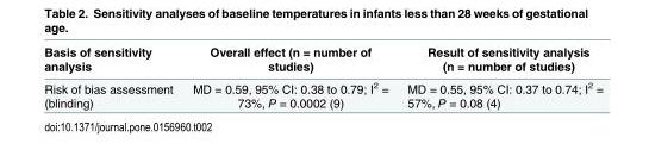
<table><thead><tr><td>Basis of sensitivity analysis</td><td>Overall effect (n = number of studies)</td><td>Result of sensitivity analysis (n = number of studies)</td></tr></thead><tbody><tr><td>Risk of bias assessment (blinding)</td><td>MD = 0.59, 95% CI: 0.38 to 0.79; I<sup>2</sup> = 73%, P = 0.0002 (9)</td><td>MD = 0.55, 95% CI: 0.37 to 0.74; I<sup>2</sup> = 57%, P = 0.08 (4)</td></tr></tbody></table>